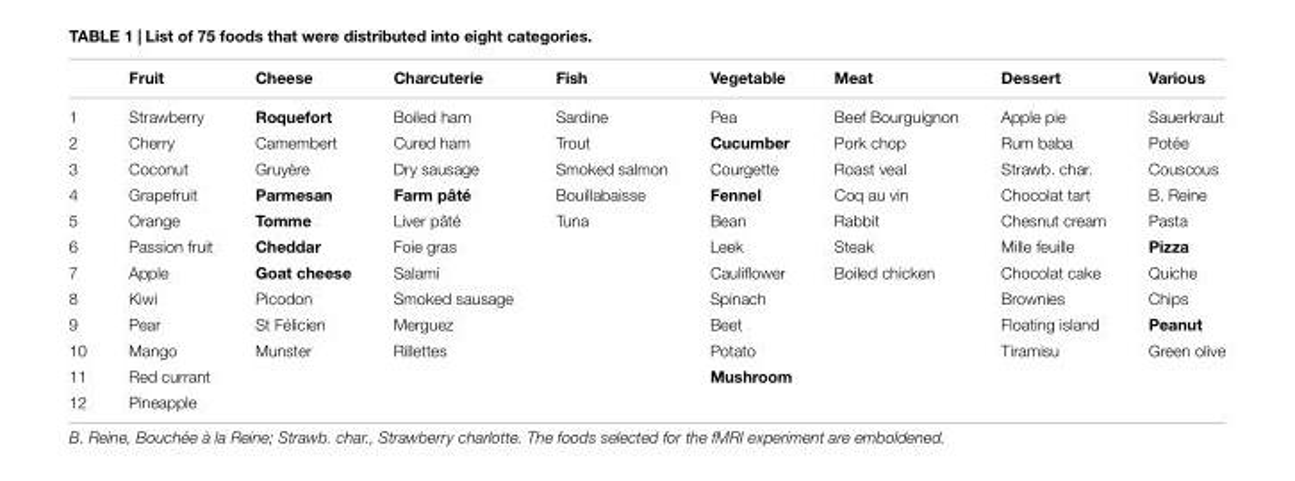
<table><thead><tr><td></td><td>Fruit</td><td>Cheese</td><td>Charcuterie</td><td>Fish</td><td>Vegetable</td><td>Meat</td><td>Dessert</td><td>Various</td></tr></thead><tbody><tr><td>1</td><td>Strawberry</td><td>Roquefort</td><td>Boiled ham</td><td>Sardine</td><td>Pea</td><td>Beef Bourguignon</td><td>Apple pie</td><td>Sauerkraut</td></tr><tr><td>2</td><td>Cherry</td><td>Camembert</td><td>Cured ham</td><td>Trout</td><td>Cucumber</td><td>Pork chop</td><td>Rum baba</td><td>Potée</td></tr><tr><td>3</td><td>Coconut</td><td>Gruyère</td><td>Dry sausage</td><td>Smoked salmon</td><td>Courgette</td><td>Roast veal</td><td>Strawb. char.</td><td>Couscous</td></tr><tr><td>4</td><td>Grapefruit</td><td>Parmesan</td><td>Farm pâté</td><td>Bouillabaisse</td><td>Fennel</td><td>Coq au vin</td><td>Chocolat tart</td><td>B. Reine</td></tr><tr><td>5</td><td>Orange</td><td>Tomme</td><td>Liver pâté</td><td>Tuna</td><td>Bean</td><td>Rabbit</td><td>Chesnut cream</td><td>Pasta</td></tr><tr><td>6</td><td>Passion fruit</td><td>Cheddar</td><td>Foie gras</td><td></td><td>Leek</td><td>Steak</td><td>Mille feuille</td><td>Pizza</td></tr><tr><td>7</td><td>Apple</td><td>Goat cheese</td><td>Salami</td><td></td><td>Cauliflower</td><td>Boiled chicken</td><td>Chocolat cake</td><td>Quiche</td></tr><tr><td>8</td><td>Kiwi</td><td>Picodon</td><td>Smoked sausage</td><td></td><td>Spinach</td><td></td><td>Brownies</td><td>Chips</td></tr><tr><td>9</td><td>Pear</td><td>St Félicien</td><td>Merguez</td><td></td><td>Beet</td><td></td><td>Floating island</td><td>Peanut</td></tr><tr><td>10</td><td>Mango</td><td>Munster</td><td>Rillettes</td><td></td><td>Potato</td><td></td><td>Tiramisu</td><td>Green olive</td></tr><tr><td>11</td><td>Red currant</td><td></td><td></td><td></td><td>Mushroom</td><td></td><td></td><td></td></tr><tr><td>12</td><td>Pineapple</td><td></td><td></td><td></td><td></td><td></td><td></td><td></td></tr></tbody></table>